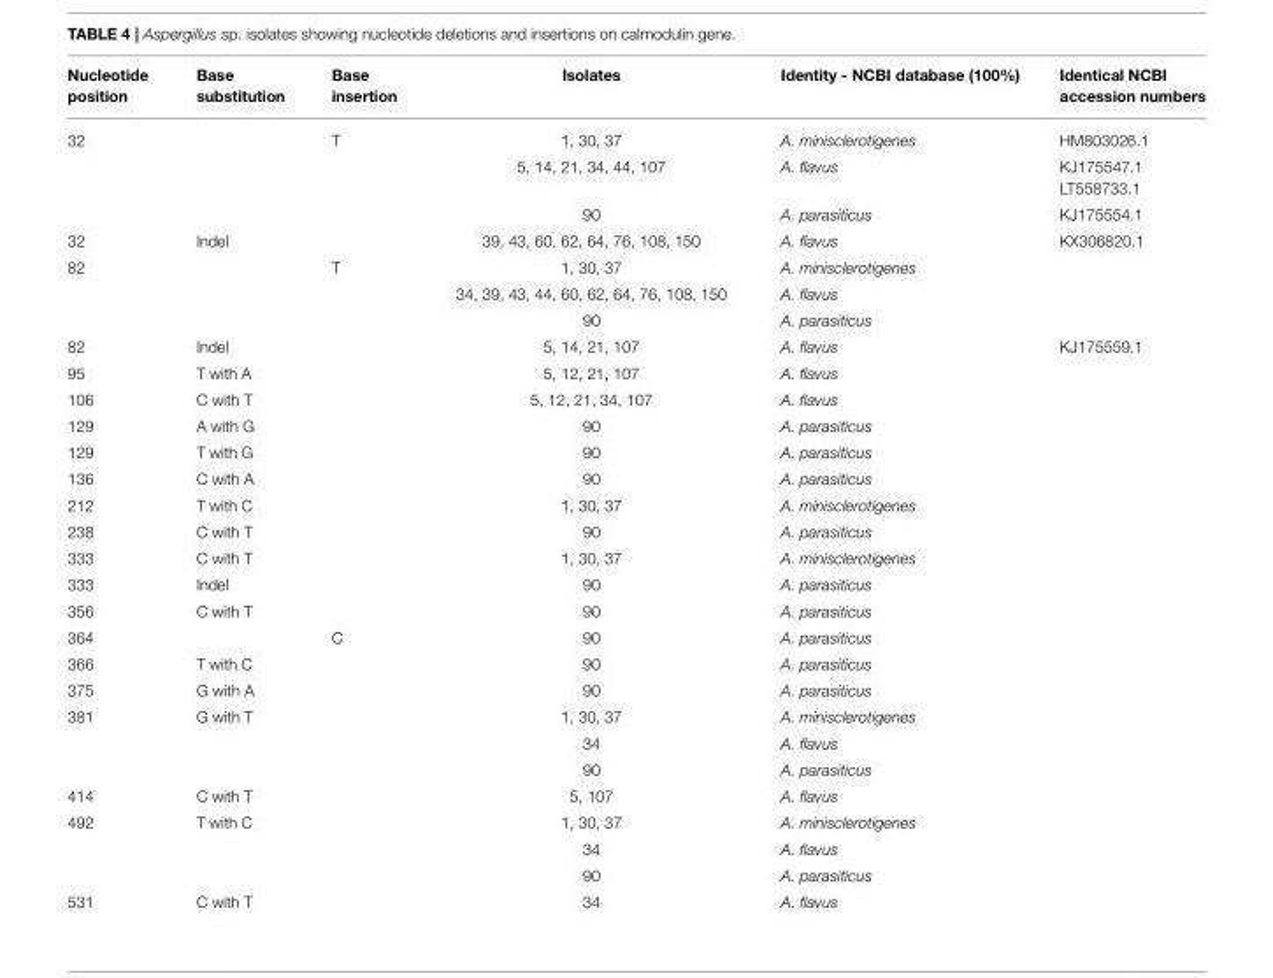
<table><thead><tr><td>Nucleotide position</td><td>Base substitution</td><td>Base insertion</td><td>Isolates</td><td>Identity - NCBI database (100%)</td><td>Identical NCBI accession numbers</td></tr></thead><tbody><tr><td rowspan="3">32</td><td></td><td>T</td><td>1, 30, 37</td><td>A. minisclerotigenes</td><td>HM803026.1</td></tr><tr><td></td><td></td><td>5, 14, 21, 34, 44, 107</td><td>A. flavus</td><td>KJ175547.1 LT558733.1</td></tr><tr><td></td><td></td><td>90</td><td>A. parasiticus</td><td>KJ175554.1</td></tr><tr><td>32</td><td>Indel</td><td></td><td>39, 43, 60, 62, 64, 76, 108, 150</td><td>A. flavus</td><td>KX306820.1</td></tr><tr><td rowspan="3">82</td><td></td><td>T</td><td>1, 30, 37</td><td>A. minisclerotigenes</td><td></td></tr><tr><td></td><td></td><td>34, 39, 43, 44, 60, 62, 64, 76, 108, 150</td><td>A. flavus</td><td></td></tr><tr><td></td><td></td><td>90</td><td>A. parasiticus</td><td></td></tr><tr><td>82</td><td>Indel</td><td></td><td>5, 14, 21, 107</td><td>A. flavus</td><td>KJ175559.1</td></tr><tr><td>95</td><td>T with A</td><td></td><td>5, 12, 21, 107</td><td>A. flavus</td><td></td></tr><tr><td>106</td><td>C with T</td><td></td><td>5, 12, 21, 34, 107</td><td>A. flavus</td><td></td></tr><tr><td>129</td><td>A with G</td><td></td><td>90</td><td>A. parasiticus</td><td></td></tr><tr><td>129</td><td>T with G</td><td></td><td>90</td><td>A. parasiticus</td><td></td></tr><tr><td>136</td><td>C with A</td><td></td><td>90</td><td>A. parasiticus</td><td></td></tr><tr><td>212</td><td>T with C</td><td></td><td>1, 30, 37</td><td>A. minisclerotigenes</td><td></td></tr><tr><td>238</td><td>C with T</td><td></td><td>90</td><td>A. parasiticus</td><td></td></tr><tr><td>333</td><td>C with T</td><td></td><td>1, 30, 37</td><td>A. minisclerotigenes</td><td></td></tr><tr><td>333</td><td>Indel</td><td></td><td>90</td><td>A. parasiticus</td><td></td></tr><tr><td>356</td><td>C with T</td><td></td><td>90</td><td>A. parasiticus</td><td></td></tr><tr><td>364</td><td></td><td>C</td><td>90</td><td>A. parasiticus</td><td></td></tr><tr><td>366</td><td>T with C</td><td></td><td>90</td><td>A. parasiticus</td><td></td></tr><tr><td>375</td><td>G with A</td><td></td><td>90</td><td>A. parasiticus</td><td></td></tr><tr><td rowspan="3">381</td><td>G with T</td><td></td><td>1, 30, 37</td><td>A. minisclerotigenes</td><td></td></tr><tr><td></td><td></td><td>34</td><td>A. flavus</td><td></td></tr><tr><td></td><td></td><td>90</td><td>A. parasiticus</td><td></td></tr><tr><td>414</td><td>C with T</td><td></td><td>5, 107</td><td>A. flavus</td><td></td></tr><tr><td rowspan="3">492</td><td>T with C</td><td></td><td>1, 30, 37</td><td>A. minisclerotigenes</td><td></td></tr><tr><td></td><td></td><td>34</td><td>A. flavus</td><td></td></tr><tr><td></td><td></td><td>90</td><td>A. parasiticus</td><td></td></tr><tr><td>531</td><td>C with T</td><td></td><td>34</td><td>A. flavus</td><td></td></tr></tbody></table>